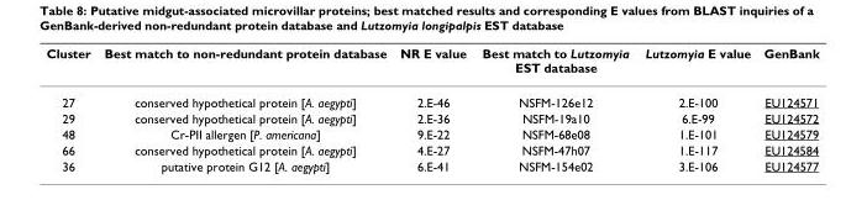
<table><thead><tr><td>Cluster</td><td>Best match to non-redundant protein database</td><td>NR E value</td><td>Best match to Lutzomyia EST database</td><td>Lutzomyia E value</td><td>GenBank</td></tr></thead><tbody><tr><td>27</td><td>conserved hypothetical protein [A. aegypti]</td><td>2.E-46</td><td>NSFM-126e12</td><td>2.E-100</td><td>EU124571</td></tr><tr><td>29</td><td>conserved hypothetical protein [A. aegypti]</td><td>2.E-36</td><td>NSFM-19a10</td><td>6.E-99</td><td>EU124572</td></tr><tr><td>48</td><td>Cr-PII allergen [P. americana]</td><td>9.E-22</td><td>NSFM-68e08</td><td>1.E-101</td><td>EU124579</td></tr><tr><td>66</td><td>conserved hypothetical protein [A. aegypti]</td><td>4.E-27</td><td>NSFM-47h07</td><td>1.E-117</td><td>EU124584</td></tr><tr><td>36</td><td>putative protein G12 [A. aegypti]</td><td>6.E-41</td><td>NSFM-154e02</td><td>3.E-106</td><td>EU124577</td></tr></tbody></table>